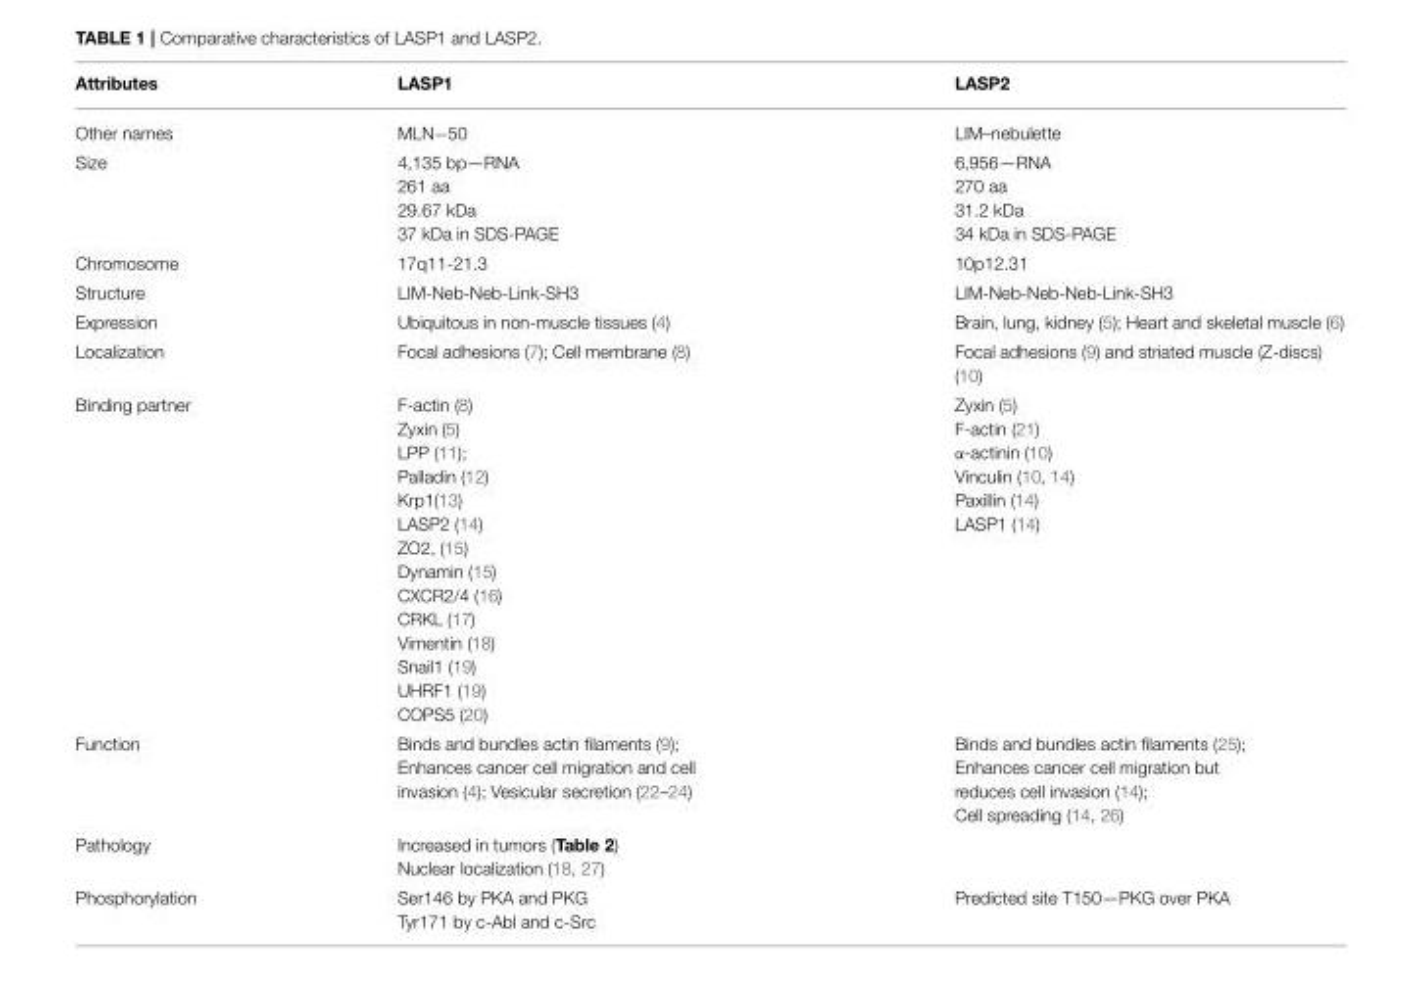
<table><thead><tr><td>Attributes</td><td>LASP1</td><td>LASP2</td></tr></thead><tbody><tr><td>Other names</td><td>MLN−50</td><td>LIM–nebulette</td></tr><tr><td>Size</td><td>4,135 bp—RNA 261 aa 29.67 kDa 37 kDa in SDS-PAGE</td><td>6,956—RNA 270 aa 31.2 kDa 34 kDa in SDS-PAGE</td></tr><tr><td>Chromosome</td><td>17q11-21.3</td><td>10p12.31</td></tr><tr><td>Structure</td><td>LIM-Neb-Neb-Link-SH3</td><td>LIM-Neb-Neb-Neb-Link-SH3</td></tr><tr><td>Expression</td><td>Ubiquitous in non-muscle tissues (4)</td><td>Brain, lung, kidney (5); Heart and skeletal muscle (6)</td></tr><tr><td>Localization</td><td>Focal adhesions (7); Cell membrane (8)</td><td>Focal adhesions (9) and striated muscle (Z-discs) (10)</td></tr><tr><td>Binding partner</td><td>F-actin (8) Zyxin (5) LPP (11); Palladin (12) Krp1(13) LASP2 (14) ZO2, (15) Dynamin (15) CXCR2/4 (16) CRKL (17) Vimentin (18) Snail1 (19) UHRF1 (19) COPS5 (20)</td><td>Zyxin (5) F-actin (21) α-actinin (10) Vinculin (10, 14) Paxillin (14) LASP1 (14)</td></tr><tr><td>Function</td><td>Binds and bundles actin filaments (9); Enhances cancer cell migration and cell invasion (4); Vesicular secretion (22–24)</td><td>Binds and bundles actin filaments (25); Enhances cancer cell migration but reduces cell invasion (14); Cell spreading (14, 26)</td></tr><tr><td>Pathology</td><td>Increased in tumors (Table 2) Nuclear localization (18, 27)</td><td></td></tr><tr><td>Phosphorylation</td><td>Ser146 by PKA and PKG Tyr171 by c-Abl and c-Src</td><td>Predicted site T150—PKG over PKA</td></tr></tbody></table>